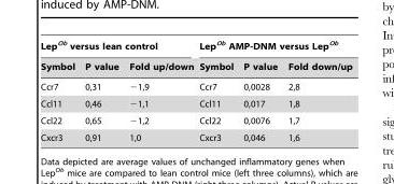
<table><thead><tr><td colspan="3">Lep<sup>Ob</sup> versus lean control</td><td colspan="3">Lep<sup>Ob</sup> AMP-DNM versus Lep<sup>Ob</sup></td></tr><tr><td>Symbol</td><td>P value</td><td>Fold up/down</td><td>Symbol</td><td>P value</td><td>Fold down/up</td></tr></thead><tbody><tr><td>Ccr7</td><td>0,31</td><td>−1,9</td><td>Ccr7</td><td>0,0028</td><td>2,8</td></tr><tr><td>Ccl11</td><td>0,46</td><td>−1,1</td><td>Ccl11</td><td>0,017</td><td>1,8</td></tr><tr><td>Ccl22</td><td>0,65</td><td>−1,2</td><td>Ccl22</td><td>0,0076</td><td>1,7</td></tr><tr><td>Cxcr3</td><td>0,91</td><td>1,0</td><td>Cxcr3</td><td>0,046</td><td>1,6</td></tr></tbody></table>